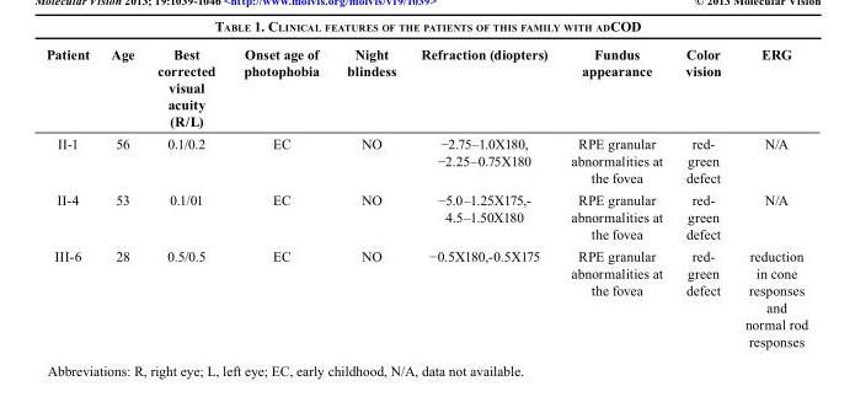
<table><thead><tr><td>Patient</td><td>Age</td><td>Best corrected visual acuity (R/L)</td><td>Onset age of photophobia</td><td>Night blindess</td><td>Refraction (diopters)</td><td>Fundus appearance</td><td>Color vision</td><td>ERG</td></tr></thead><tbody><tr><td>II-1</td><td>56</td><td>0.1/0.2</td><td>EC</td><td>NO</td><td>−2.75–1.0X180, −2.25–0.75X180</td><td>RPE granular abnormalities at the fovea</td><td>red- green defect</td><td>N/A</td></tr><tr><td>II-4</td><td>53</td><td>0.1/01</td><td>EC</td><td>NO</td><td>−5.0–1.25X175,- 4.5–1.50X180</td><td>RPE granular abnormalities at the fovea</td><td>red- green defect</td><td>N/A</td></tr><tr><td>III-6</td><td>28</td><td>0.5/0.5</td><td>EC</td><td>NO</td><td>−0.5X180,-0.5X175</td><td>RPE granular abnormalities at the fovea</td><td>red- green defect</td><td>reduction in cone responses and normal rod responses</td></tr></tbody></table>